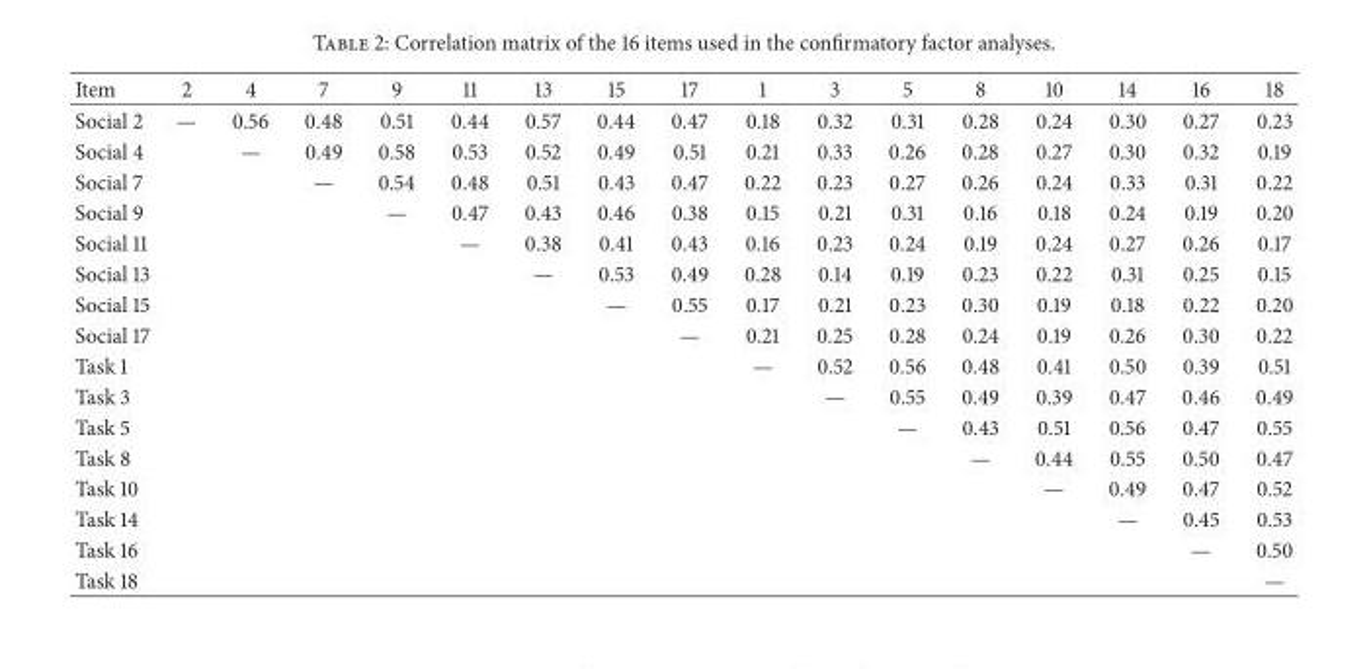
<table><thead><tr><td>Item</td><td>2</td><td>4</td><td>7</td><td>9</td><td>11</td><td>13</td><td>15</td><td>17</td><td>1</td><td>3</td><td>5</td><td>8</td><td>10</td><td>14</td><td>16</td><td>18</td></tr></thead><tbody><tr><td>Social 2</td><td>—</td><td>0.56</td><td>0.48</td><td>0.51</td><td>0.44</td><td>0.57</td><td>0.44</td><td>0.47</td><td>0.18</td><td>0.32</td><td>0.31</td><td>0.28</td><td>0.24</td><td>0.30</td><td>0.27</td><td>0.23</td></tr><tr><td>Social 4</td><td></td><td>—</td><td>0.49</td><td>0.58</td><td>0.53</td><td>0.52</td><td>0.49</td><td>0.51</td><td>0.21</td><td>0.33</td><td>0.26</td><td>0.28</td><td>0.27</td><td>0.30</td><td>0.32</td><td>0.19</td></tr><tr><td>Social 7</td><td></td><td></td><td>—</td><td>0.54</td><td>0.48</td><td>0.51</td><td>0.43</td><td>0.47</td><td>0.22</td><td>0.23</td><td>0.27</td><td>0.26</td><td>0.24</td><td>0.33</td><td>0.31</td><td>0.22</td></tr><tr><td>Social 9</td><td></td><td></td><td></td><td>—</td><td>0.47</td><td>0.43</td><td>0.46</td><td>0.38</td><td>0.15</td><td>0.21</td><td>0.31</td><td>0.16</td><td>0.18</td><td>0.24</td><td>0.19</td><td>0.20</td></tr><tr><td>Social 11</td><td></td><td></td><td></td><td></td><td>—</td><td>0.38</td><td>0.41</td><td>0.43</td><td>0.16</td><td>0.23</td><td>0.24</td><td>0.19</td><td>0.24</td><td>0.27</td><td>0.26</td><td>0.17</td></tr><tr><td>Social 13</td><td></td><td></td><td></td><td></td><td></td><td>—</td><td>0.53</td><td>0.49</td><td>0.28</td><td>0.14</td><td>0.19</td><td>0.23</td><td>0.22</td><td>0.31</td><td>0.25</td><td>0.15</td></tr><tr><td>Social 15</td><td></td><td></td><td></td><td></td><td></td><td></td><td>—</td><td>0.55</td><td>0.17</td><td>0.21</td><td>0.23</td><td>0.30</td><td>0.19</td><td>0.18</td><td>0.22</td><td>0.20</td></tr><tr><td>Social 17</td><td></td><td></td><td></td><td></td><td></td><td></td><td></td><td>—</td><td>0.21</td><td>0.25</td><td>0.28</td><td>0.24</td><td>0.19</td><td>0.26</td><td>0.30</td><td>0.22</td></tr><tr><td>Task 1</td><td></td><td></td><td></td><td></td><td></td><td></td><td></td><td></td><td>—</td><td>0.52</td><td>0.56</td><td>0.48</td><td>0.41</td><td>0.50</td><td>0.39</td><td>0.51</td></tr><tr><td>Task 3</td><td></td><td></td><td></td><td></td><td></td><td></td><td></td><td></td><td></td><td>—</td><td>0.55</td><td>0.49</td><td>0.39</td><td>0.47</td><td>0.46</td><td>0.49</td></tr><tr><td>Task 5</td><td></td><td></td><td></td><td></td><td></td><td></td><td></td><td></td><td></td><td></td><td>—</td><td>0.43</td><td>0.51</td><td>0.56</td><td>0.47</td><td>0.55</td></tr><tr><td>Task 8</td><td></td><td></td><td></td><td></td><td></td><td></td><td></td><td></td><td></td><td></td><td></td><td>—</td><td>0.44</td><td>0.55</td><td>0.50</td><td>0.47</td></tr><tr><td>Task 10</td><td></td><td></td><td></td><td></td><td></td><td></td><td></td><td></td><td></td><td></td><td></td><td></td><td>—</td><td>0.49</td><td>0.47</td><td>0.52</td></tr><tr><td>Task 14</td><td></td><td></td><td></td><td></td><td></td><td></td><td></td><td></td><td></td><td></td><td></td><td></td><td></td><td>—</td><td>0.45</td><td>0.53</td></tr><tr><td>Task 16</td><td></td><td></td><td></td><td></td><td></td><td></td><td></td><td></td><td></td><td></td><td></td><td></td><td></td><td></td><td>—</td><td>0.50</td></tr><tr><td>Task 18</td><td></td><td></td><td></td><td></td><td></td><td></td><td></td><td></td><td></td><td></td><td></td><td></td><td></td><td></td><td></td><td>—</td></tr></tbody></table>